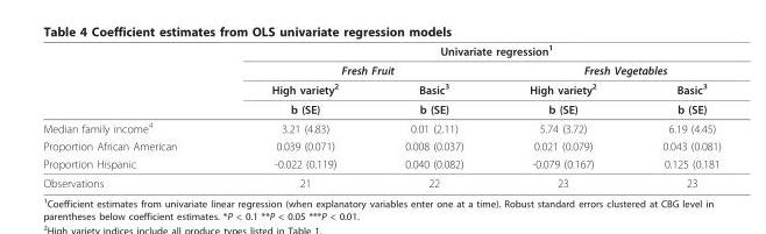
<table><thead><tr><td rowspan="4"></td><td colspan="4">Univariate regression<sup>1</sup></td></tr><tr><td colspan="2">Fresh Fruit</td><td colspan="2">Fresh Vegetables</td></tr><tr><td rowspan="2">High variety<sup>2</sup> b (SE)</td><td rowspan="2">Basic<sup>3</sup> b (SE)</td><td rowspan="2">High variety<sup>2</sup> b (SE)</td><td rowspan="2">Basic<sup>3</sup> b (SE)</td></tr><tr></tr></thead><tbody><tr><td>Median family income<sup>4</sup></td><td>3.21 (4.83)</td><td>0.01 (2.11)</td><td>5.74 (3.72)</td><td>6.19 (4.45)</td></tr><tr><td>Proportion African American</td><td>0.039 (0.071)</td><td>0.008 (0.037)</td><td>0.021 (0.079)</td><td>0.043 (0.081)</td></tr><tr><td>Proportion Hispanic</td><td>-0.022 (0.119)</td><td>0.040 (0.082)</td><td>-0.079 (0.167)</td><td>0.125 (0.181</td></tr><tr><td>Observations</td><td>21</td><td>22</td><td>23</td><td>23</td></tr></tbody></table>